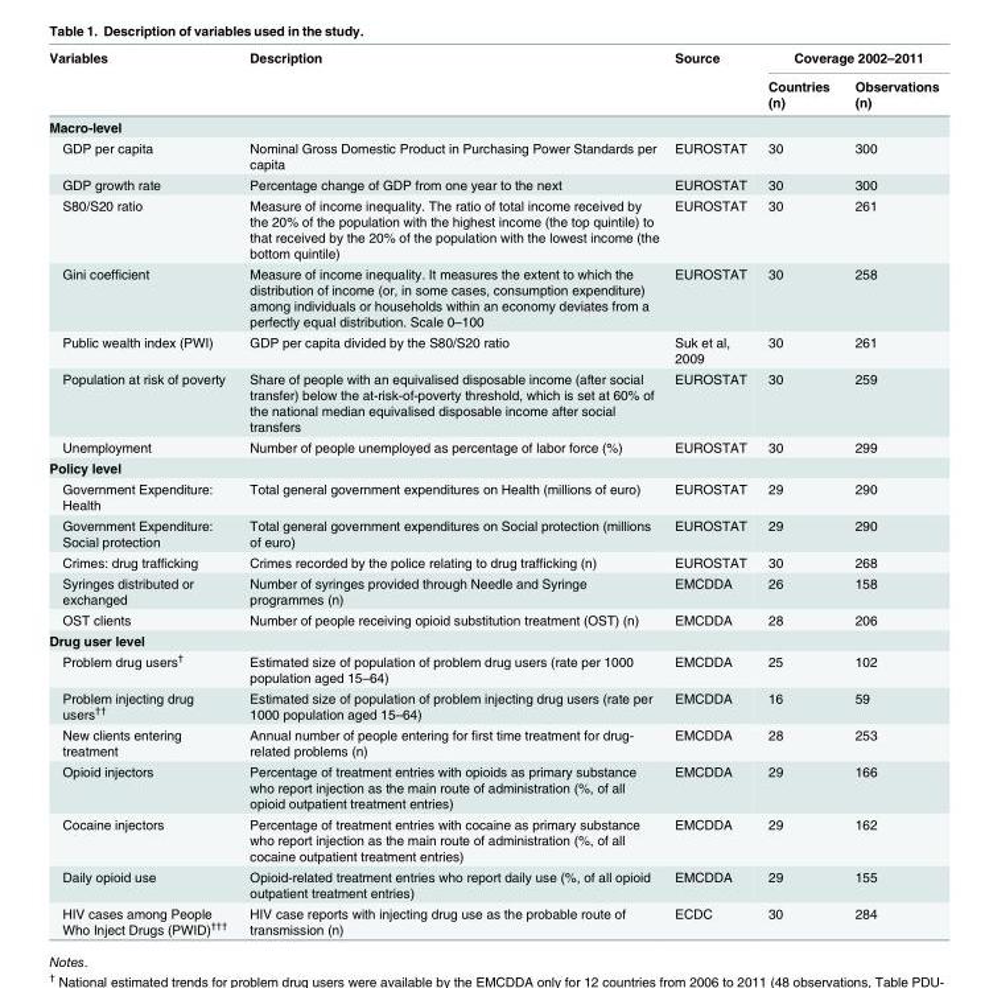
<table><thead><tr><td rowspan="2">Variables</td><td rowspan="2">Description</td><td rowspan="2">Source</td><td colspan="2">Coverage 2002–2011</td></tr><tr><td>Countries (n)</td><td>Observations (n)</td></tr></thead><tbody><tr><td colspan="5">Macro-level</td></tr><tr><td>GDP per capita</td><td>Nominal Gross Domestic Product in Purchasing Power Standards per capita</td><td>EUROSTAT</td><td>30</td><td>300</td></tr><tr><td>GDP growth rate</td><td>Percentage change of GDP from one year to the next</td><td>EUROSTAT</td><td>30</td><td>300</td></tr><tr><td>S80/S20 ratio</td><td>Measure of income inequality. The ratio of total income received by the 20% of the population with the highest income (the top quintile) to that received by the 20% of the population with the lowest income (the bottom quintile)</td><td>EUROSTAT</td><td>30</td><td>261</td></tr><tr><td>Gini coefficient</td><td>Measure of income inequality. It measures the extent to which the distribution of income (or, in some cases, consumption expenditure) among individuals or households within an economy deviates from a perfectly equal distribution. Scale 0–100</td><td>EUROSTAT</td><td>30</td><td>258</td></tr><tr><td>Public wealth index (PWI)</td><td>GDP per capita divided by the S80/S20 ratio</td><td>Suk et al, 2009</td><td>30</td><td>261</td></tr><tr><td>Population at risk of poverty</td><td>Share of people with an equivalised disposable income (after social transfer) below the at-risk-of-poverty threshold, which is set at 60% of the national median equivalised disposable income after social transfers</td><td>EUROSTAT</td><td>30</td><td>259</td></tr><tr><td>Unemployment</td><td>Number of people unemployed as percentage of labor force (%)</td><td>EUROSTAT</td><td>30</td><td>299</td></tr><tr><td colspan="5">Policy level</td></tr><tr><td>Government Expenditure: Health</td><td>Total general government expenditures on Health (millions of euro)</td><td>EUROSTAT</td><td>29</td><td>290</td></tr><tr><td>Government Expenditure: Social protection</td><td>Total general government expenditures on Social protection (millions of euro)</td><td>EUROSTAT</td><td>29</td><td>290</td></tr><tr><td>Crimes: drug trafficking</td><td>Crimes recorded by the police relating to drug trafficking (n)</td><td>EUROSTAT</td><td>30</td><td>268</td></tr><tr><td>Syringes distributed or exchanged</td><td>Number of syringes provided through Needle and Syringe programmes (n)</td><td>EMCDDA</td><td>26</td><td>158</td></tr><tr><td>OST clients</td><td>Number of people receiving opioid substitution treatment (OST) (n)</td><td>EMCDDA</td><td>28</td><td>206</td></tr><tr><td colspan="5">Drug user level</td></tr><tr><td>Problem drug users<sup>†</sup></td><td>Estimated size of population of problem drug users (rate per 1000 population aged 15–64)</td><td>EMCDDA</td><td>25</td><td>102</td></tr><tr><td>Problem injecting drug users<sup>††</sup></td><td>Estimated size of population of problem injecting drug users (rate per 1000 population aged 15–64)</td><td>EMCDDA</td><td>16</td><td>59</td></tr><tr><td>New clients entering treatment</td><td>Annual number of people entering for first time treatment for drug- related problems (n)</td><td>EMCDDA</td><td>28</td><td>253</td></tr><tr><td>Opioid injectors</td><td>Percentage of treatment entries with opioids as primary substance who report injection as the main route of administration (%, of all opioid outpatient treatment entries)</td><td>EMCDDA</td><td>29</td><td>166</td></tr><tr><td>Cocaine injectors</td><td>Percentage of treatment entries with cocaine as primary substance who report injection as the main route of administration (%, of all cocaine outpatient treatment entries)</td><td>EMCDDA</td><td>29</td><td>162</td></tr><tr><td>Daily opioid use</td><td>Opioid-related treatment entries who report daily use (%, of all opioid outpatient treatment entries)</td><td>EMCDDA</td><td>29</td><td>155</td></tr><tr><td>HIV cases among People Who Inject Drugs (PWID)<sup>†††</sup></td><td>HIV case reports with injecting drug use as the probable route of transmission (n)</td><td>ECDC</td><td>30</td><td>284</td></tr></tbody></table>